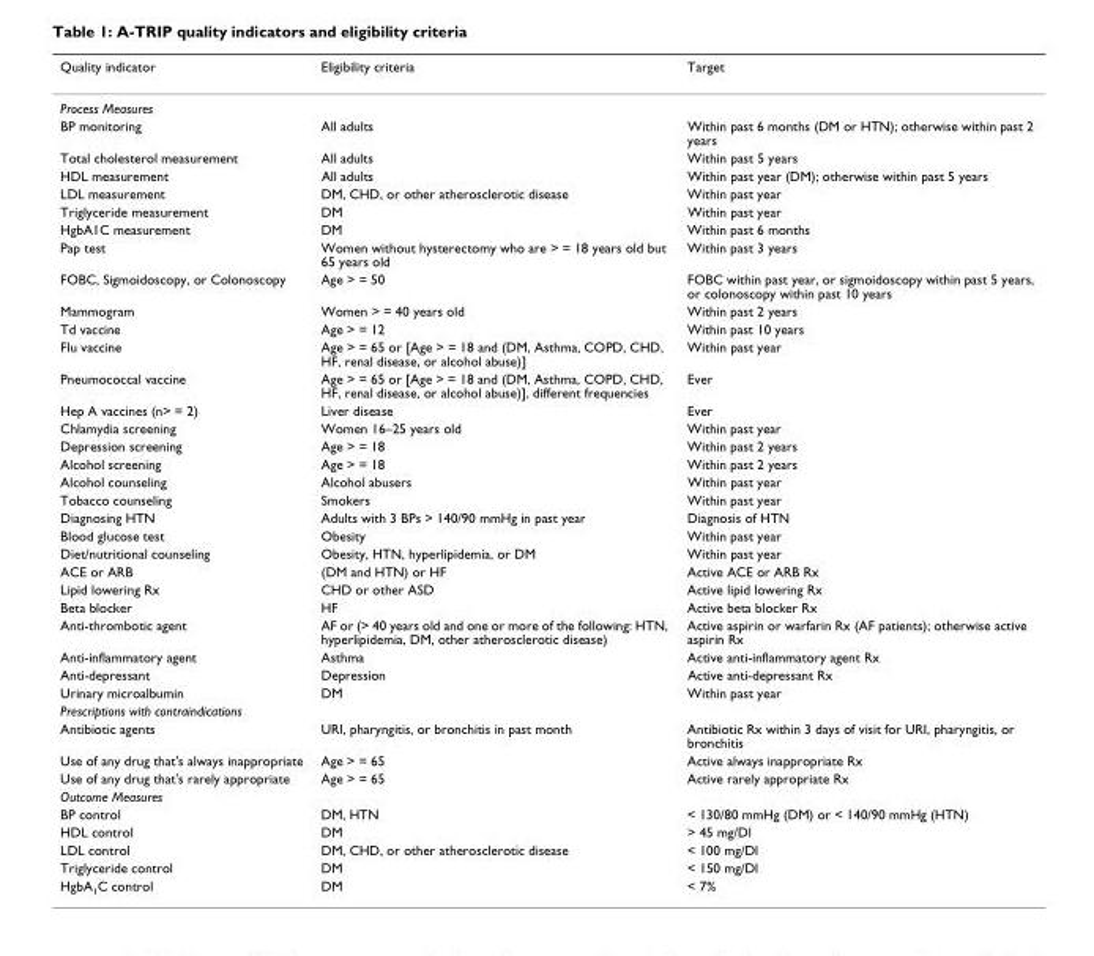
<table><thead><tr><td>Quality indicator</td><td>Eligibility criteria</td><td>Target</td></tr></thead><tbody><tr><td colspan="3">Process Measures</td></tr><tr><td>BP monitoring</td><td>All adults</td><td>Within past 6 months (DM or HTN); otherwise within past 2 years</td></tr><tr><td>Total cholesterol measurement</td><td>All adults</td><td>Within past 5 years</td></tr><tr><td>HDL measurement</td><td>All adults</td><td>Within past year (DM); otherwise within past 5 years</td></tr><tr><td>LDL measurement</td><td>DM, CHD, or other atherosclerotic disease</td><td>Within past year</td></tr><tr><td>Triglyceride measurement</td><td>DM</td><td>Within past year</td></tr><tr><td>HgbA1C measurement</td><td>DM</td><td>Within past 6 months</td></tr><tr><td>Pap test</td><td>Women without hysterectomy who are &gt; = 18 years old but 65 years old</td><td>Within past 3 years</td></tr><tr><td>FOBC, Sigmoidoscopy, or Colonoscopy</td><td>Age &gt; = 50</td><td>FOBC within past year, or sigmoidoscopy within past 5 years, or colonoscopy within past 10 years</td></tr><tr><td>Mammogram</td><td>Women &gt; = 40 years old</td><td>Within past 2 years</td></tr><tr><td>Td vaccine</td><td>Age &gt; = 12</td><td>Within past 10 years</td></tr><tr><td>Flu vaccine</td><td>Age &gt; = 65 or [Age &gt; = 18 and (DM, Asthma, COPD, CHD, HF, renal disease, or alcohol abuse)]</td><td>Within past year</td></tr><tr><td>Pneumococcal vaccine</td><td>Age &gt; = 65 or [Age &gt; = 18 and (DM, Asthma, COPD, CHD, HF, renal disease, or alcohol abuse)], different frequencies</td><td>Ever</td></tr><tr><td>Hep A vaccines (n&gt; = 2)</td><td>Liver disease</td><td>Ever</td></tr><tr><td>Chlamydia screening</td><td>Women 16–25 years old</td><td>Within past year</td></tr><tr><td>Depression screening</td><td>Age &gt; = 18</td><td>Within past 2 years</td></tr><tr><td>Alcohol screening</td><td>Age &gt; = 18</td><td>Within past 2 years</td></tr><tr><td>Alcohol counseling</td><td>Alcohol abusers</td><td>Within past year</td></tr><tr><td>Tobacco counseling</td><td>Smokers</td><td>Within past year</td></tr><tr><td>Diagnosing HTN</td><td>Adults with 3 BPs &gt; 140/90 mmHg in past year</td><td>Diagnosis of HTN</td></tr><tr><td>Blood glucose test</td><td>Obesity</td><td>Within past year</td></tr><tr><td>Diet/nutritional counseling</td><td>Obesity, HTN, hyperlipidemia, or DM</td><td>Within past year</td></tr><tr><td>ACE or ARB</td><td>(DM and HTN) or HF</td><td>Active ACE or ARB Rx</td></tr><tr><td>Lipid lowering Rx</td><td>CHD or other ASD</td><td>Active lipid lowering Rx</td></tr><tr><td>Beta blocker</td><td>HF</td><td>Active beta blocker Rx</td></tr><tr><td>Anti-thrombotic agent</td><td>AF or (&gt; 40 years old and one or more of the following: HTN, hyperlipidemia, DM, other atherosclerotic disease)</td><td>Active aspirin or warfarin Rx (AF patients); otherwise active aspirin Rx</td></tr><tr><td>Anti-inflammatory agent</td><td>Asthma</td><td>Active anti-inflammatory agent Rx</td></tr><tr><td>Anti-depressant</td><td>Depression</td><td>Active anti-depressant Rx</td></tr><tr><td>Urinary microalbumin</td><td>DM</td><td>Within past year</td></tr><tr><td colspan="3">Prescriptions with contraindications</td></tr><tr><td>Antibiotic agents</td><td>URI, pharyngitis, or bronchitis in past month</td><td>Antibiotic Rx within 3 days of visit for URI, pharyngitis, or bronchitis</td></tr><tr><td>Use of any drug that&#x27;s always inappropriate</td><td>Age &gt; = 65</td><td>Active always inappropriate Rx</td></tr><tr><td>Use of any drug that&#x27;s rarely appropriate</td><td>Age &gt; = 65</td><td>Active rarely appropriate Rx</td></tr><tr><td colspan="3">Outcome Measures</td></tr><tr><td>BP control</td><td>DM, HTN</td><td>&lt; 130/80 mmHg (DM) or &lt; 140/90 mmHg (HTN)</td></tr><tr><td>HDL control</td><td>DM</td><td>&gt; 45 mg/Dl</td></tr><tr><td>LDL control</td><td>DM, CHD, or other atherosclerotic disease</td><td>&lt; 100 mg/Dl</td></tr><tr><td>Triglyceride control</td><td>DM</td><td>&lt; 150 mg/Dl</td></tr><tr><td>HgbA<sub>1</sub>C control</td><td>DM</td><td>&lt; 7%</td></tr></tbody></table>